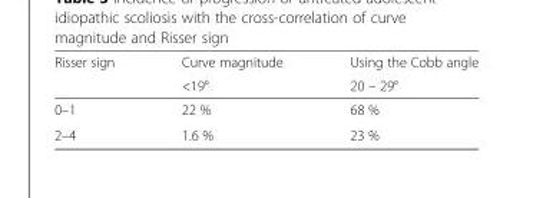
<table><thead><tr><td rowspan="2">Risser sign</td><td rowspan="2">Curve magnitude &lt;19°</td><td rowspan="2">Using the Cobb angle 20 – 29°</td></tr><tr></tr></thead><tbody><tr><td>0–1</td><td>22 %</td><td>68 %</td></tr><tr><td>2–4</td><td>1.6 %</td><td>23 %</td></tr></tbody></table>